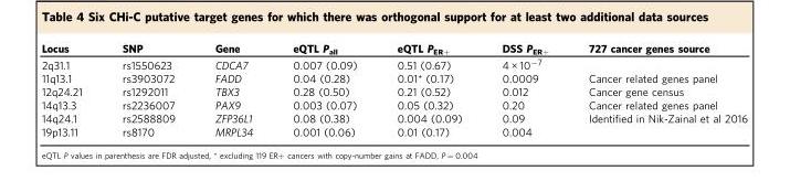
<table><thead><tr><td>Locus</td><td>SNP</td><td>Gene</td><td>eQTL P<sub>all</sub></td><td>eQTL P<sub>ER+</sub></td><td>DSS P<sub>ER+</sub></td><td>727 cancer genes source</td></tr></thead><tbody><tr><td>2q31.1</td><td>rs1550623</td><td>CDCA7</td><td>0.007 (0.09)</td><td>0.51 (0.67)</td><td>4 × 10<sup>−7</sup></td><td></td></tr><tr><td>11q13.1</td><td>rs3903072</td><td>FADD</td><td>0.04 (0.28)</td><td>0.01* (0.17)</td><td>0.0009</td><td>Cancer related genes panel</td></tr><tr><td>12q24.21</td><td>rs1292011</td><td>TBX3</td><td>0.28 (0.50)</td><td>0.21 (0.52)</td><td>0.012</td><td>Cancer gene census</td></tr><tr><td>14q13.3</td><td>rs2236007</td><td>PAX9</td><td>0.003 (0.07)</td><td>0.05 (0.32)</td><td>0.20</td><td>Cancer related genes panel</td></tr><tr><td>14q24.1</td><td>rs2588809</td><td>ZFP36L1</td><td>0.08 (0.38)</td><td>0.004 (0.09)</td><td>0.09</td><td>Identified in Nik-Zainal et al 2016</td></tr><tr><td>19p13.11</td><td>rs8170</td><td>MRPL34</td><td>0.001 (0.06)</td><td>0.01 (0.17)</td><td>0.004</td><td></td></tr></tbody></table>